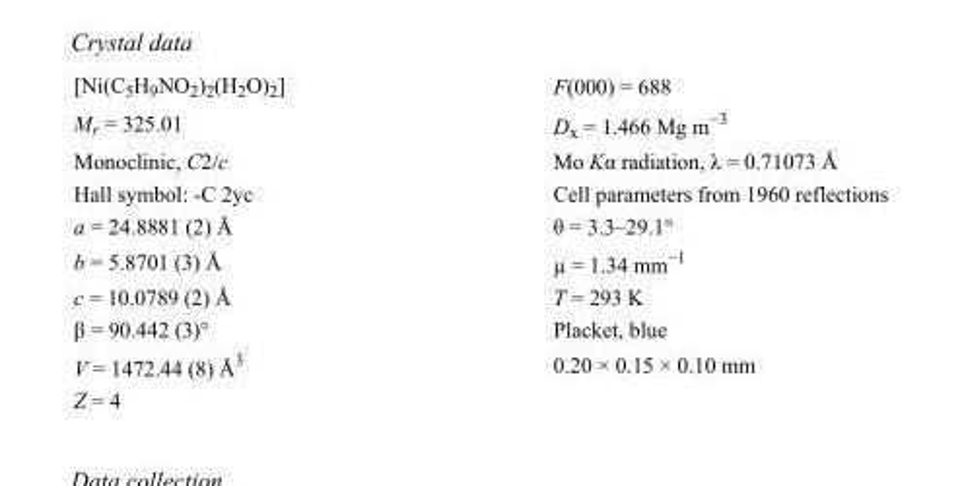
<table><tbody><tr><td>[Ni(C<sub>5</sub>H<sub>9</sub>NO<sub>2</sub>)<sub>2</sub>(H<sub>2</sub>O)<sub>2</sub>]</td><td>F(000) = 688</td></tr><tr><td>M<sub>r</sub> = 325.01</td><td>D<sub>x</sub> = 1.466 Mg m<sup>−3</sup></td></tr><tr><td>Monoclinic, C2/c</td><td>Mo Kα radiation, λ = 0.71073 Å</td></tr><tr><td>Hall symbol: -C 2yc</td><td>Cell parameters from 1960 reflections</td></tr><tr><td>a = 24.8881 (2) Å</td><td>θ = 3.3–29.1°</td></tr><tr><td>b = 5.8701 (3) Å</td><td>µ = 1.34 mm<sup>−1</sup></td></tr><tr><td>c = 10.0789 (2) Å</td><td>T = 293 K</td></tr><tr><td>β = 90.442 (3)°</td><td>Placket, blue</td></tr><tr><td>V = 1472.44 (8) Å<sup>3</sup></td><td>0.20 × 0.15 × 0.10 mm</td></tr><tr><td>Z = 4</td><td></td></tr></tbody></table>